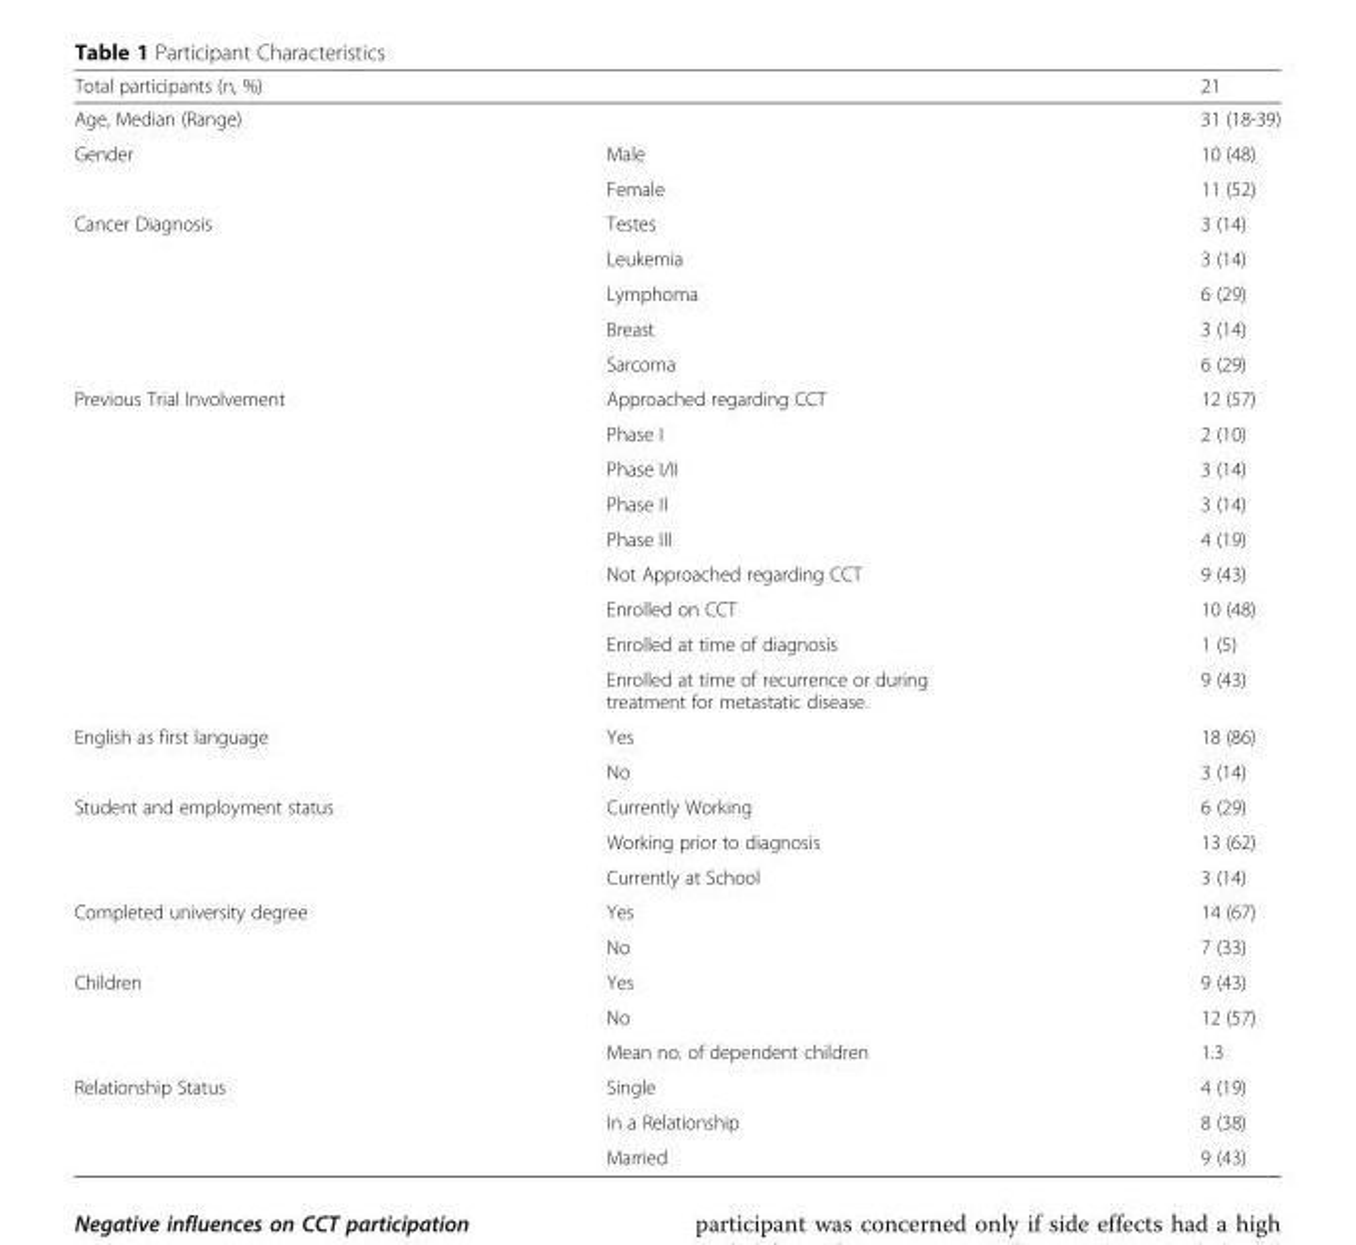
<table><thead><tr><td>Total participants (n, %)</td><td></td><td>21</td></tr></thead><tbody><tr><td>Age, Median (Range)</td><td></td><td>31 (18-39)</td></tr><tr><td rowspan="2">Gender</td><td>Male</td><td>10 (48)</td></tr><tr><td>Female</td><td>11 (52)</td></tr><tr><td rowspan="5">Cancer Diagnosis</td><td>Testes</td><td>3 (14)</td></tr><tr><td>Leukemia</td><td>3 (14)</td></tr><tr><td>Lymphoma</td><td>6 (29)</td></tr><tr><td>Breast</td><td>3 (14)</td></tr><tr><td>Sarcoma</td><td>6 (29)</td></tr><tr><td rowspan="9">Previous Trial Involvement</td><td>Approached regarding CCT</td><td>12 (57)</td></tr><tr><td>Phase I</td><td>2 (10)</td></tr><tr><td>Phase I/II</td><td>3 (14)</td></tr><tr><td>Phase II</td><td>3 (14)</td></tr><tr><td>Phase III</td><td>4 (19)</td></tr><tr><td>Not Approached regarding CCT</td><td>9 (43)</td></tr><tr><td>Enrolled on CCT</td><td>10 (48)</td></tr><tr><td>Enrolled at time of diagnosis</td><td>1 (5)</td></tr><tr><td>Enrolled at time of recurrence or during treatment for metastatic disease.</td><td>9 (43)</td></tr><tr><td rowspan="2">English as first language</td><td>Yes</td><td>18 (86)</td></tr><tr><td>No</td><td>3 (14)</td></tr><tr><td rowspan="3">Student and employment status</td><td>Currently Working</td><td>6 (29)</td></tr><tr><td>Working prior to diagnosis</td><td>13 (62)</td></tr><tr><td>Currently at School</td><td>3 (14)</td></tr><tr><td rowspan="2">Completed university degree</td><td>Yes</td><td>14 (67)</td></tr><tr><td>No</td><td>7 (33)</td></tr><tr><td rowspan="3">Children</td><td>Yes</td><td>9 (43)</td></tr><tr><td>No</td><td>12 (57)</td></tr><tr><td>Mean no. of dependent children</td><td>1.3</td></tr><tr><td rowspan="3">Relationship Status</td><td>Single</td><td>4 (19)</td></tr><tr><td>In a Relationship</td><td>8 (38)</td></tr><tr><td>Married</td><td>9 (43)</td></tr></tbody></table>